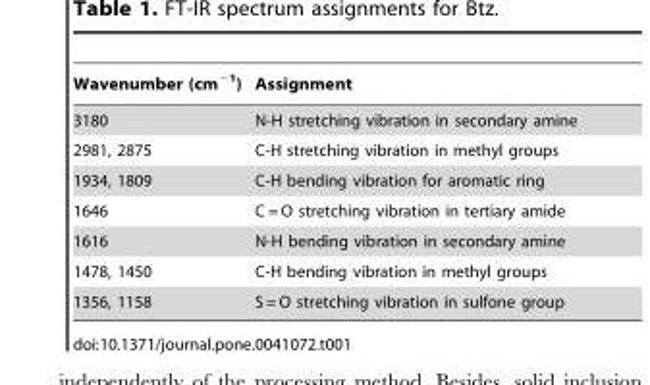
<table><thead><tr><td>Wavenumber (cm<sup>−1</sup>)</td><td>Assignment</td></tr></thead><tbody><tr><td>3180</td><td>N-H stretching vibration in secondary amine</td></tr><tr><td>2981, 2875</td><td>C-H stretching vibration in methyl groups</td></tr><tr><td>1934, 1809</td><td>C-H bending vibration for aromatic ring</td></tr><tr><td>1646</td><td>C = O stretching vibration in tertiary amide</td></tr><tr><td>1616</td><td>N-H bending vibration in secondary amine</td></tr><tr><td>1478, 1450</td><td>C-H bending vibration in methyl groups</td></tr><tr><td>1356, 1158</td><td>S = O stretching vibration in sulfone group</td></tr></tbody></table>